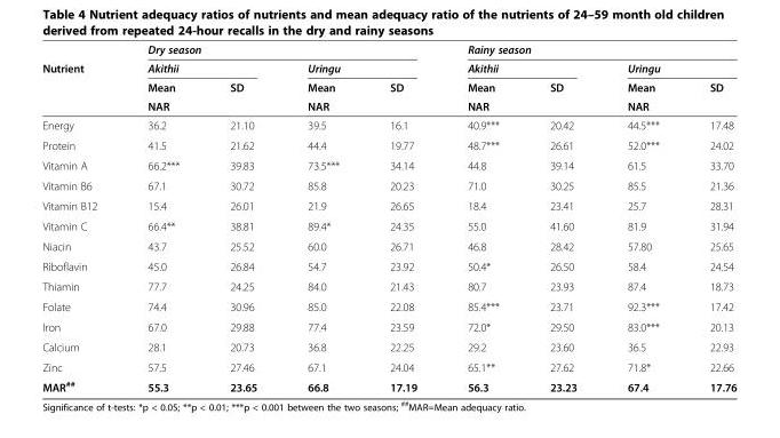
<table><thead><tr><td rowspan="4">Nutrient</td><td colspan="4">Dry season</td><td colspan="4">Rainy season</td></tr><tr><td colspan="2">Akithii</td><td colspan="2">Uringu</td><td colspan="2">Akithii</td><td colspan="2">Uringu</td></tr><tr><td rowspan="2">Mean NAR</td><td rowspan="2">SD</td><td rowspan="2">Mean NAR</td><td rowspan="2">SD</td><td rowspan="2">Mean NAR</td><td rowspan="2">SD</td><td rowspan="2">Mean NAR</td><td rowspan="2">SD</td></tr><tr></tr></thead><tbody><tr><td>Energy</td><td>36.2</td><td>21.10</td><td>39.5</td><td>16.1</td><td>40.9***</td><td>20.42</td><td>44.5***</td><td>17.48</td></tr><tr><td>Protein</td><td>41.5</td><td>21.62</td><td>44.4</td><td>19.77</td><td>48.7***</td><td>26.61</td><td>52.0***</td><td>24.02</td></tr><tr><td>Vitamin A</td><td>66.2***</td><td>39.83</td><td>73.5***</td><td>34.14</td><td>44.8</td><td>39.14</td><td>61.5</td><td>33.70</td></tr><tr><td>Vitamin B6</td><td>67.1</td><td>30.72</td><td>85.8</td><td>20.23</td><td>71.0</td><td>30.25</td><td>85.5</td><td>21.36</td></tr><tr><td>Vitamin B12</td><td>15.4</td><td>26.01</td><td>21.9</td><td>26.65</td><td>18.4</td><td>23.41</td><td>25.7</td><td>28.31</td></tr><tr><td>Vitamin C</td><td>66.4**</td><td>38.81</td><td>89.4*</td><td>24.35</td><td>55.0</td><td>41.60</td><td>81.9</td><td>31.94</td></tr><tr><td>Niacin</td><td>43.7</td><td>25.52</td><td>60.0</td><td>26.71</td><td>46.8</td><td>28.42</td><td>57.80</td><td>25.65</td></tr><tr><td>Riboflavin</td><td>45.0</td><td>26.84</td><td>54.7</td><td>23.92</td><td>50.4*</td><td>26.50</td><td>58.4</td><td>24.54</td></tr><tr><td>Thiamin</td><td>77.7</td><td>24.25</td><td>84.0</td><td>21.43</td><td>80.7</td><td>23.93</td><td>87.4</td><td>18.73</td></tr><tr><td>Folate</td><td>74.4</td><td>30.96</td><td>85.0</td><td>22.08</td><td>85.4***</td><td>23.71</td><td>92.3***</td><td>17.42</td></tr><tr><td>Iron</td><td>67.0</td><td>29.88</td><td>77.4</td><td>23.59</td><td>72.0*</td><td>29.50</td><td>83.0***</td><td>20.13</td></tr><tr><td>Calcium</td><td>28.1</td><td>20.73</td><td>36.8</td><td>22.25</td><td>29.2</td><td>23.60</td><td>36.5</td><td>22.93</td></tr><tr><td>Zinc</td><td>57.5</td><td>27.46</td><td>67.1</td><td>24.04</td><td>65.1**</td><td>27.62</td><td>71.8*</td><td>22.66</td></tr><tr><td>MAR<sup>##</sup></td><td>55.3</td><td>23.65</td><td>66.8</td><td>17.19</td><td>56.3</td><td>23.23</td><td>67.4</td><td>17.76</td></tr></tbody></table>